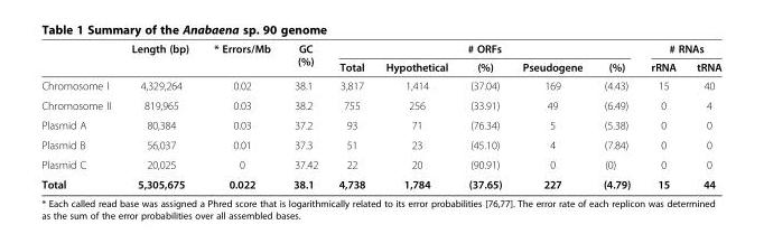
<table><thead><tr><td rowspan="2"></td><td rowspan="2">Length (bp)</td><td rowspan="2">* Errors/Mb</td><td rowspan="2">GC (%)</td><td colspan="5"># ORFs</td><td colspan="2"># RNAs</td></tr><tr><td>Total</td><td>Hypothetical</td><td>(%)</td><td>Pseudogene</td><td>(%)</td><td>rRNA</td><td>tRNA</td></tr></thead><tbody><tr><td>Chromosome I</td><td>4,329,264</td><td>0.02</td><td>38.1</td><td>3,817</td><td>1,414</td><td>(37.04)</td><td>169</td><td>(4.43)</td><td>15</td><td>40</td></tr><tr><td>Chromosome II</td><td>819,965</td><td>0.03</td><td>38.2</td><td>755</td><td>256</td><td>(33.91)</td><td>49</td><td>(6.49)</td><td>0</td><td>4</td></tr><tr><td>Plasmid A</td><td>80,384</td><td>0.03</td><td>37.2</td><td>93</td><td>71</td><td>(76.34)</td><td>5</td><td>(5.38)</td><td>0</td><td>0</td></tr><tr><td>Plasmid B</td><td>56,037</td><td>0.01</td><td>37.3</td><td>51</td><td>23</td><td>(45.10)</td><td>4</td><td>(7.84)</td><td>0</td><td>0</td></tr><tr><td>Plasmid C</td><td>20,025</td><td>0</td><td>37.42</td><td>22</td><td>20</td><td>(90.91)</td><td>0</td><td>(0)</td><td>0</td><td>0</td></tr><tr><td>Total</td><td>5,305,675</td><td>0.022</td><td>38.1</td><td>4,738</td><td>1,784</td><td>(37.65)</td><td>227</td><td>(4.79)</td><td>15</td><td>44</td></tr></tbody></table>